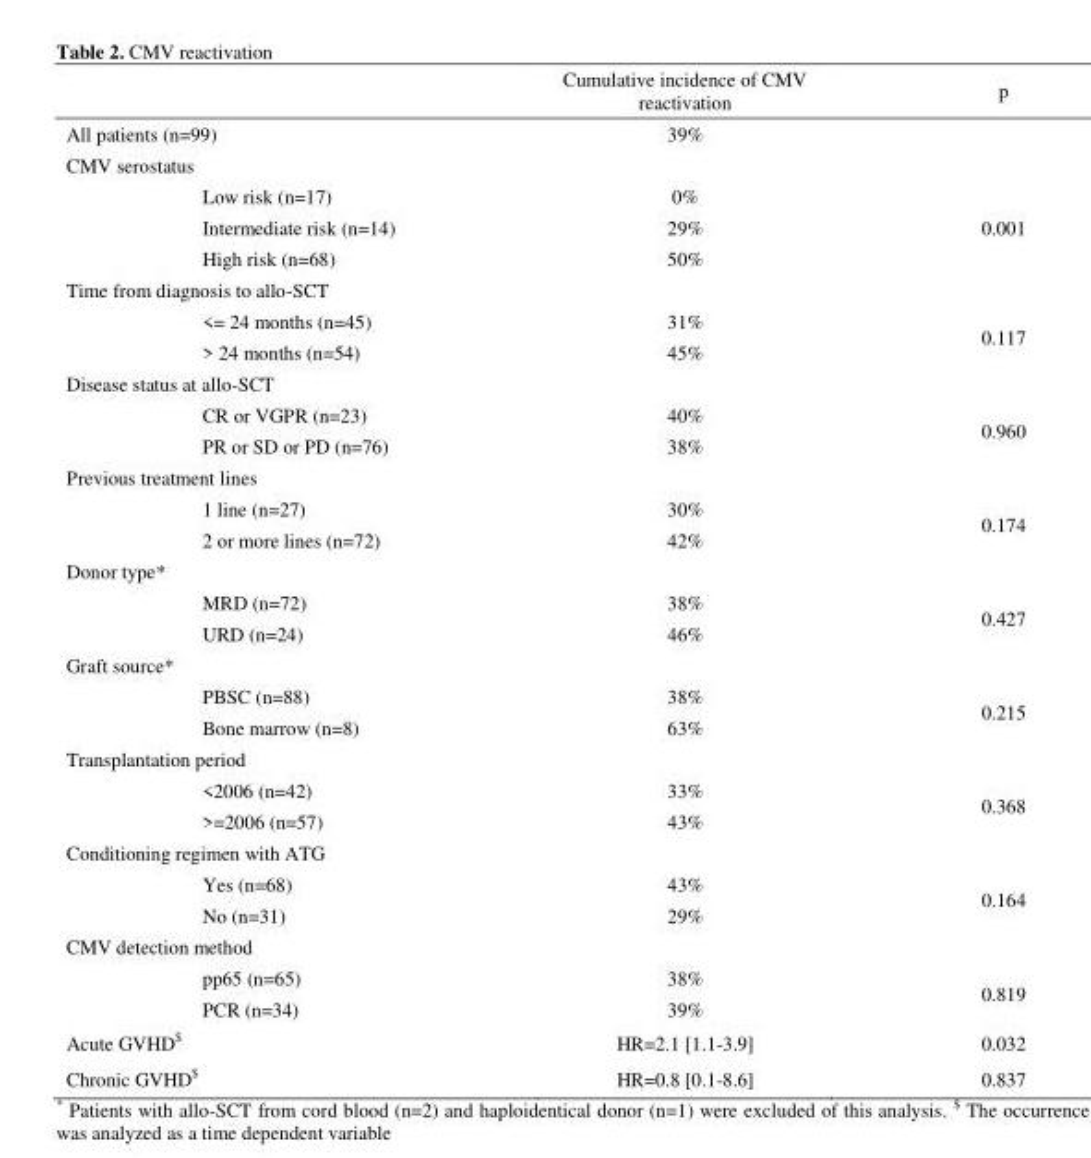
<table><thead><tr><td></td><td>Cumulative incidence of CMV reactivation</td><td>p</td></tr></thead><tbody><tr><td>All patients (n=99)</td><td>39%</td><td></td></tr><tr><td colspan="3">CMV serostatus</td></tr><tr><td>Low risk (n=17)</td><td>0%</td><td rowspan="3">0.001</td></tr><tr><td>Intermediate risk (n=14)</td><td>29%</td></tr><tr><td>High risk (n=68)</td><td>50%</td></tr><tr><td colspan="3">Time from diagnosis to allo-SCT</td></tr><tr><td>&lt;= 24 months (n=45)</td><td>31%</td><td rowspan="2">0.117</td></tr><tr><td>&gt; 24 months (n=54)</td><td>45%</td></tr><tr><td colspan="3">Disease status at allo-SCT</td></tr><tr><td>CR or VGPR (n=23)</td><td>40%</td><td rowspan="2">0.960</td></tr><tr><td>PR or SD or PD (n=76)</td><td>38%</td></tr><tr><td colspan="3">Previous treatment lines</td></tr><tr><td>1 line (n=27)</td><td>30%</td><td rowspan="2">0.174</td></tr><tr><td>2 or more lines (n=72)</td><td>42%</td></tr><tr><td colspan="3">Donor type*</td></tr><tr><td>MRD (n=72)</td><td>38%</td><td rowspan="2">0.427</td></tr><tr><td>URD (n=24)</td><td>46%</td></tr><tr><td colspan="3">Graft source*</td></tr><tr><td>PBSC (n=88)</td><td>38%</td><td rowspan="2">0.215</td></tr><tr><td>Bone marrow (n=8)</td><td>63%</td></tr><tr><td colspan="3">Transplantation period</td></tr><tr><td>&lt;2006 (n=42)</td><td>33%</td><td rowspan="2">0.368</td></tr><tr><td>&gt;=2006 (n=57)</td><td>43%</td></tr><tr><td colspan="3">Conditioning regimen with ATG</td></tr><tr><td>Yes (n=68)</td><td>43%</td><td rowspan="2">0.164</td></tr><tr><td>No (n=31)</td><td>29%</td></tr><tr><td colspan="3">CMV detection method</td></tr><tr><td>pp65 (n=65)</td><td>38%</td><td rowspan="2">0.819</td></tr><tr><td>PCR (n=34)</td><td>39%</td></tr><tr><td>Acute GVHD$</td><td>HR=2.1 [1.1-3.9]</td><td>0.032</td></tr><tr><td>Chronic GVHD$</td><td>HR=0.8 [0.1-8.6]</td><td>0.837</td></tr></tbody></table>